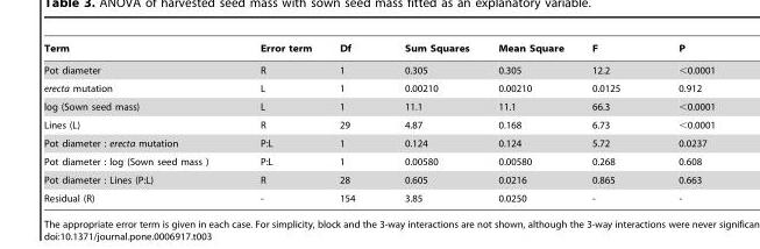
<table><thead><tr><td>Term</td><td>Error term</td><td>Df</td><td>Sum Squares</td><td>Mean Square</td><td>F</td><td>P</td></tr></thead><tbody><tr><td>Pot diameter</td><td>R</td><td>1</td><td>0.305</td><td>0.305</td><td>12.2</td><td>&lt;0.0001</td></tr><tr><td>erecta mutation</td><td>L</td><td>1</td><td>0.00210</td><td>0.00210</td><td>0.0125</td><td>0.912</td></tr><tr><td>log (Sown seed mass)</td><td>L</td><td>1</td><td>11.1</td><td>11.1</td><td>66.3</td><td>&lt;0.0001</td></tr><tr><td>Lines (L)</td><td>R</td><td>29</td><td>4.87</td><td>0.168</td><td>6.73</td><td>&lt;0.0001</td></tr><tr><td>Pot diameter : erecta mutation</td><td>P:L</td><td>1</td><td>0.124</td><td>0.124</td><td>5.72</td><td>0.0237</td></tr><tr><td>Pot diameter : log (Sown seed mass )</td><td>P:L</td><td>1</td><td>0.00580</td><td>0.00580</td><td>0.268</td><td>0.608</td></tr><tr><td>Pot diameter : Lines (P:L)</td><td>R</td><td>28</td><td>0.605</td><td>0.0216</td><td>0.865</td><td>0.663</td></tr><tr><td>Residual (R)</td><td>-</td><td>154</td><td>3.85</td><td>0.0250</td><td>-</td><td>-</td></tr></tbody></table>